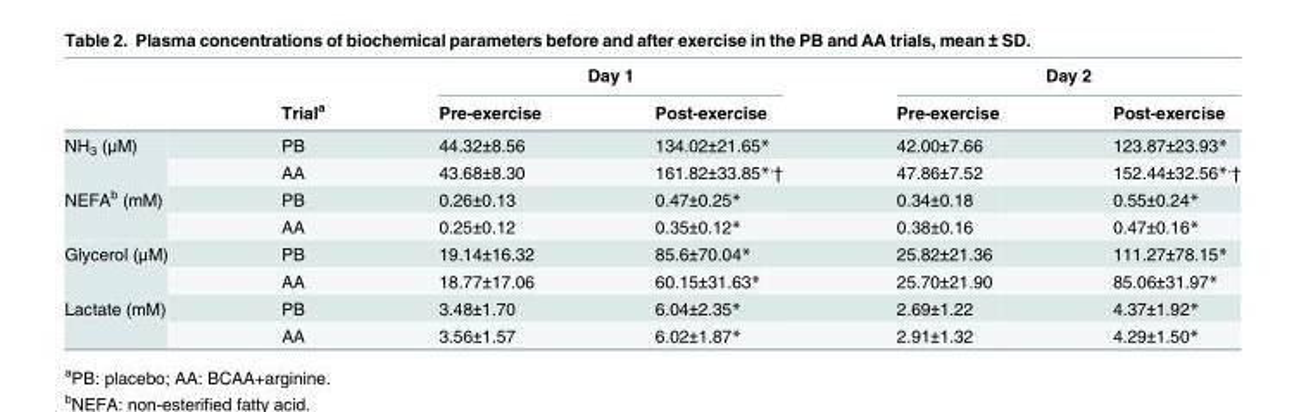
<table><thead><tr><td rowspan="2"></td><td rowspan="2">Trial<sup>a</sup></td><td colspan="2">Day 1</td><td colspan="2">Day 2</td></tr><tr><td>Pre-exercise</td><td>Post-exercise</td><td>Pre-exercise</td><td>Post-exercise</td></tr></thead><tbody><tr><td rowspan="2">NH<sub>3</sub> (μM)</td><td>PB</td><td>44.32±8.56</td><td>134.02±21.65*</td><td>42.00±7.66</td><td>123.87±23.93*</td></tr><tr><td>AA</td><td>43.68±8.30</td><td>161.82±33.85*<sup>,</sup>†</td><td>47.86±7.52</td><td>152.44±32.56*<sup>,</sup>†</td></tr><tr><td rowspan="2">NEFA<sup>b</sup> (mM)</td><td>PB</td><td>0.26±0.13</td><td>0.47±0.25*</td><td>0.34±0.18</td><td>0.55±0.24*</td></tr><tr><td>AA</td><td>0.25±0.12</td><td>0.35±0.12*</td><td>0.38±0.16</td><td>0.47±0.16*</td></tr><tr><td rowspan="2">Glycerol (μM)</td><td>PB</td><td>19.14±16.32</td><td>85.6±70.04*</td><td>25.82±21.36</td><td>111.27±78.15*</td></tr><tr><td>AA</td><td>18.77±17.06</td><td>60.15±31.63*</td><td>25.70±21.90</td><td>85.06±31.97*</td></tr><tr><td rowspan="2">Lactate (mM)</td><td>PB</td><td>3.48±1.70</td><td>6.04±2.35*</td><td>2.69±1.22</td><td>4.37±1.92*</td></tr><tr><td>AA</td><td>3.56±1.57</td><td>6.02±1.87*</td><td>2.91±1.32</td><td>4.29±1.50*</td></tr></tbody></table>